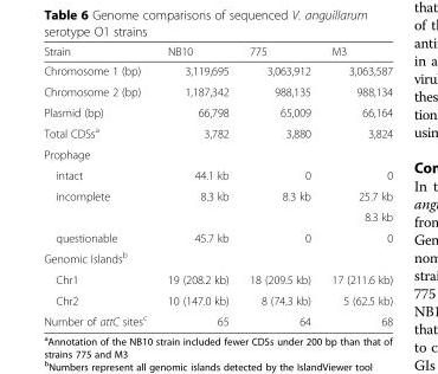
<table><thead><tr><td>Strain</td><td>NB10</td><td>775</td><td>M3</td></tr></thead><tbody><tr><td>Chromosome 1 (bp)</td><td>3,119,695</td><td>3,063,912</td><td>3,063,587</td></tr><tr><td>Chromosome 2 (bp)</td><td>1,187,342</td><td>988,135</td><td>988,134</td></tr><tr><td>Plasmid (bp)</td><td>66,798</td><td>65,009</td><td>66,164</td></tr><tr><td>Total CDSs<sup>a</sup></td><td>3,782</td><td>3,880</td><td>3,824</td></tr><tr><td colspan="4">Prophage</td></tr><tr><td>intact</td><td>44.1 kb</td><td>0</td><td>0</td></tr><tr><td rowspan="2">incomplete</td><td>8.3 kb</td><td>8.3 kb</td><td>25.7 kb</td></tr><tr><td></td><td></td><td>8.3 kb</td></tr><tr><td>questionable</td><td>45.7 kb</td><td>0</td><td>0</td></tr><tr><td colspan="4">Genomic Islands<sup>b</sup></td></tr><tr><td>Chr1</td><td>19 (208.2 kb)</td><td>18 (209.5 kb)</td><td>17 (211.6 kb)</td></tr><tr><td>Chr2</td><td>10 (147.0 kb)</td><td>8 (74.3 kb)</td><td>5 (62.5 kb)</td></tr><tr><td>Number of attC sites<sup>c</sup></td><td>65</td><td>64</td><td>68</td></tr></tbody></table>